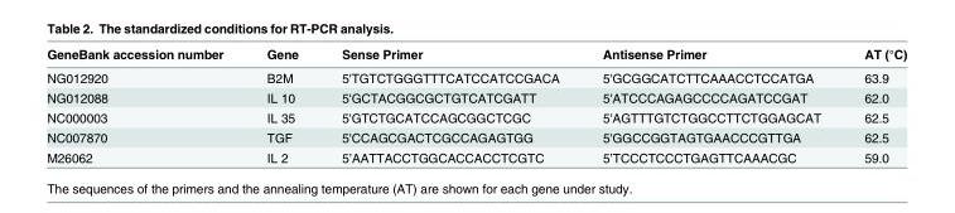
<table><thead><tr><td>GeneBank accession number</td><td>Gene</td><td>Sense Primer</td><td>Antisense Primer</td><td>AT (°C)</td></tr></thead><tbody><tr><td>NG012920</td><td>B2M</td><td>5&#x27;TGTCTGGGTTTCATCCATCCGACA</td><td>5&#x27;GCGGCATCTTCAAACCTCCATGA</td><td>63.9</td></tr><tr><td>NG012088</td><td>IL 10</td><td>5&#x27;GCTACGGCGCTGTCATCGATT</td><td>5&#x27;ATCCCAGAGCCCCAGATCCGAT</td><td>62.0</td></tr><tr><td>NC000003</td><td>IL 35</td><td>5&#x27;GTCTGCATCCAGCGGCTCGC</td><td>5&#x27;AGTTTGTCTGGCCTTCTGGAGCAT</td><td>62.5</td></tr><tr><td>NC007870</td><td>TGF</td><td>5&#x27;CCAGCGACTCGCCAGAGTGG</td><td>5&#x27;GGCCGGTAGTGAACCCGTTGA</td><td>62.5</td></tr><tr><td>M26062</td><td>IL 2</td><td>5’AATTACCTGGCACCACCTCGTC</td><td>5’TCCCTCCCTGAGTTCAAACGC</td><td>59.0</td></tr></tbody></table>